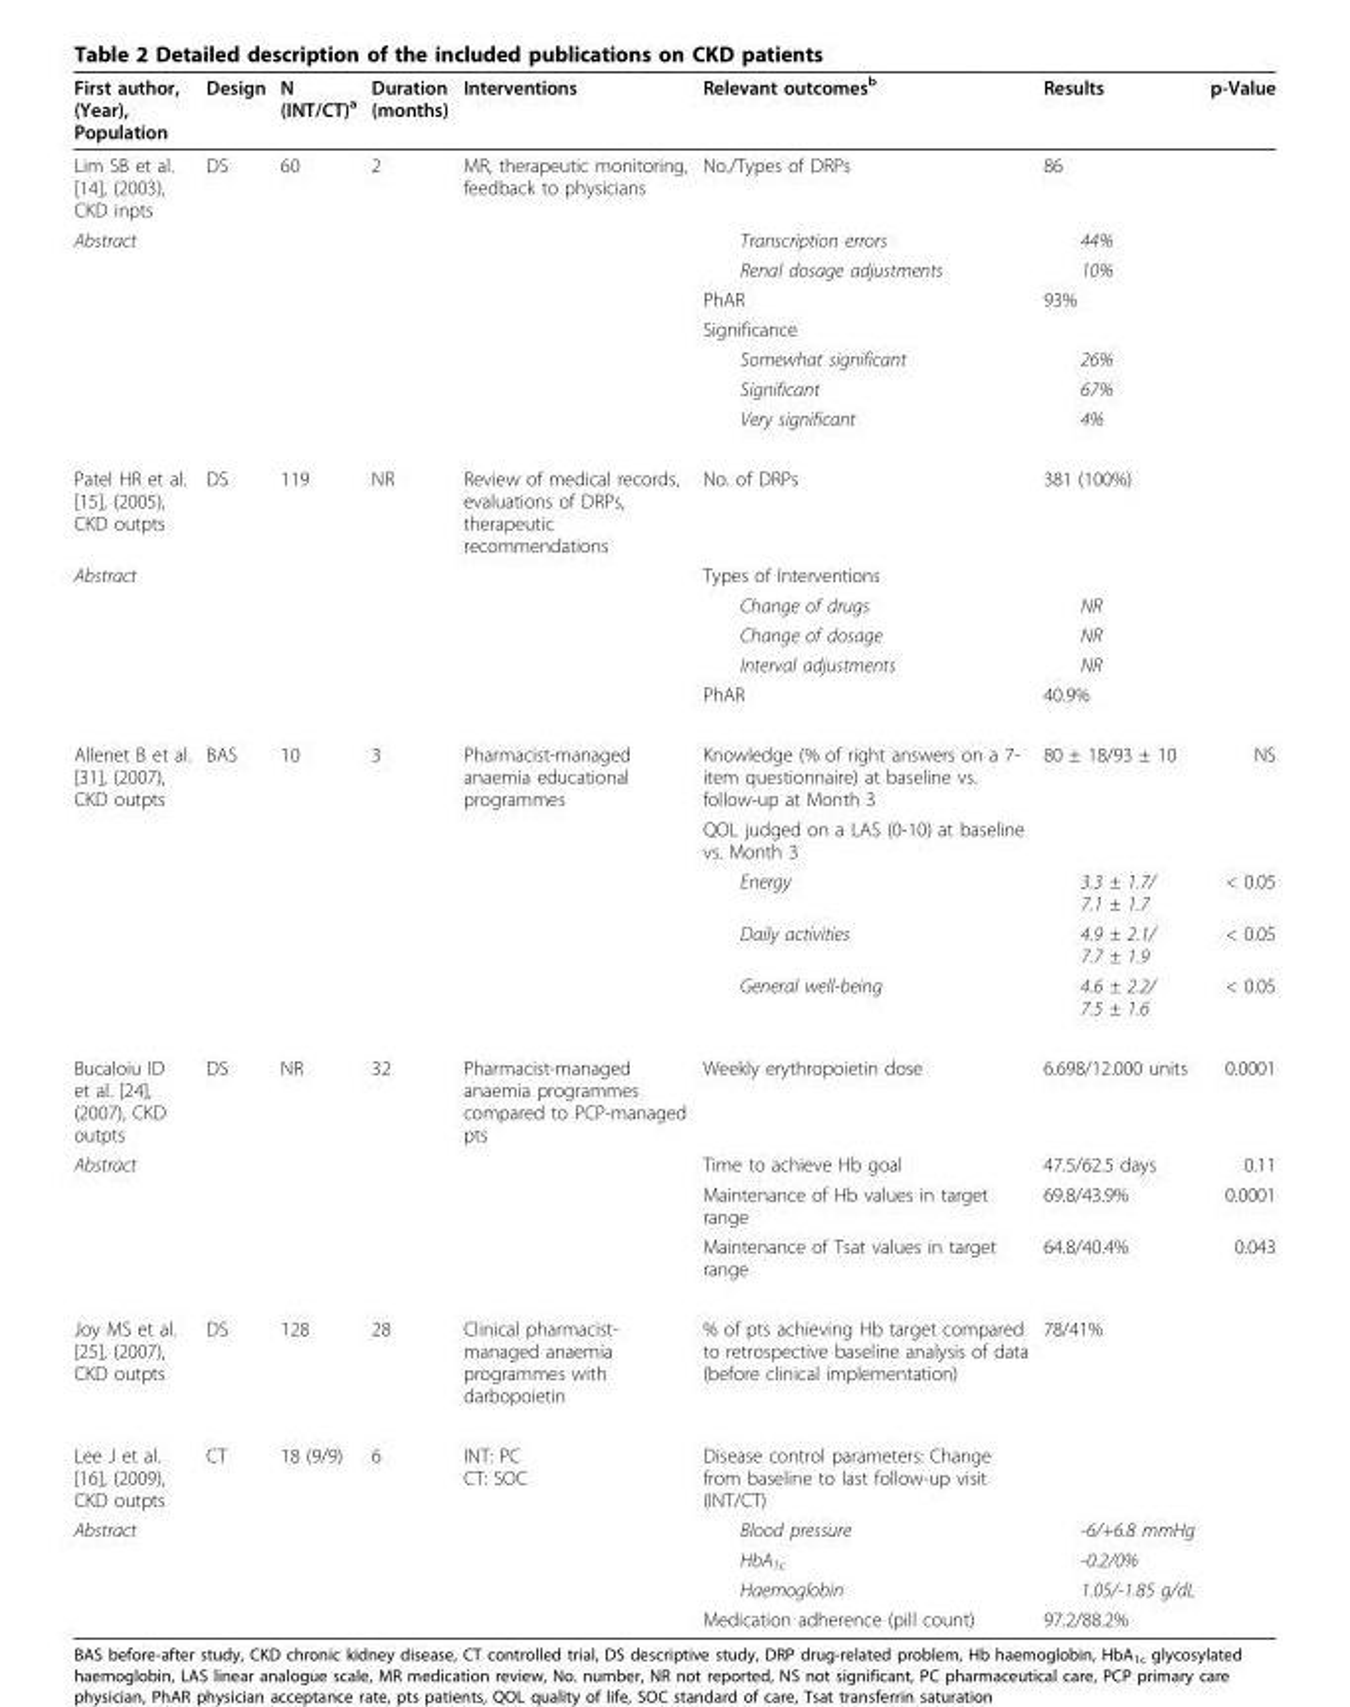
<table><thead><tr><td>First author, (Year), Population</td><td>Design</td><td>N (INT/CT)<sup>a</sup></td><td>Duration (months)</td><td>Interventions</td><td>Relevant outcomes<sup>b</sup></td><td>Results</td><td>p-Value</td></tr></thead><tbody><tr><td>Lim SB et al. [14], (2003), CKD inpts</td><td>DS</td><td>60</td><td>2</td><td>MR, therapeutic monitoring, feedback to physicians</td><td>No./Types of DRPs</td><td>86</td><td></td></tr><tr><td rowspan="7">Abstract</td><td></td><td></td><td></td><td></td><td>Transcription errors</td><td>44%</td><td></td></tr><tr><td></td><td></td><td></td><td></td><td>Renal dosage adjustments</td><td>10%</td><td></td></tr><tr><td></td><td></td><td></td><td></td><td>PhAR</td><td>93%</td><td></td></tr><tr><td></td><td></td><td></td><td></td><td>Significance</td><td></td><td></td></tr><tr><td></td><td></td><td></td><td></td><td>Somewhat significant</td><td>26%</td><td></td></tr><tr><td></td><td></td><td></td><td></td><td>Significant</td><td>67%</td><td></td></tr><tr><td></td><td></td><td></td><td></td><td>Very significant</td><td>4%</td><td></td></tr><tr><td>Patel HR et al. [15], (2005), CKD outpts</td><td>DS</td><td>119</td><td>NR</td><td>Review of medical records, evaluations of DRPs, therapeutic recommendations</td><td>No. of DRPs</td><td>381 (100%)</td><td></td></tr><tr><td rowspan="5">Abstract</td><td></td><td></td><td></td><td></td><td>Types of Interventions</td><td></td><td></td></tr><tr><td></td><td></td><td></td><td></td><td>Change of drugs</td><td>NR</td><td></td></tr><tr><td></td><td></td><td></td><td></td><td>Change of dosage</td><td>NR</td><td></td></tr><tr><td></td><td></td><td></td><td></td><td>Interval adjustments</td><td>NR</td><td></td></tr><tr><td></td><td></td><td></td><td></td><td>PhAR</td><td>40.9%</td><td></td></tr><tr><td rowspan="5">Allenet B et al. [31], (2007), CKD outpts</td><td>BAS</td><td>10</td><td>3</td><td>Pharmacist-managed anaemia educational programmes</td><td>Knowledge (% of right answers on a 7- item questionnaire) at baseline vs. follow-up at Month 3</td><td>80 ± 18/93 ± 10</td><td>NS</td></tr><tr><td></td><td></td><td></td><td></td><td>QOL judged on a LAS (0-10) at baseline vs. Month 3</td><td></td><td></td></tr><tr><td></td><td></td><td></td><td></td><td>Energy</td><td>3.3 ± 1.7/ 7.1 ± 1.7</td><td>&lt; 0.05</td></tr><tr><td></td><td></td><td></td><td></td><td>Daily activities</td><td>4.9 ± 2.1/ 7.7 ± 1.9</td><td>&lt; 0.05</td></tr><tr><td></td><td></td><td></td><td></td><td>General well-being</td><td>4.6 ± 2.2/ 7.5 ± 1.6</td><td>&lt; 0.05</td></tr><tr><td>Bucaloiu ID et al. [24], (2007), CKD outpts</td><td>DS</td><td>NR</td><td>32</td><td>Pharmacist-managed anaemia programmes compared to PCP-managed pts</td><td>Weekly erythropoietin dose</td><td>6.698/12.000 units</td><td>0.0001</td></tr><tr><td rowspan="3">Abstract</td><td></td><td></td><td></td><td></td><td>Time to achieve Hb goal</td><td>47.5/62.5 days</td><td>0.11</td></tr><tr><td></td><td></td><td></td><td></td><td>Maintenance of Hb values in target range</td><td>69.8/43.9%</td><td>0.0001</td></tr><tr><td></td><td></td><td></td><td></td><td>Maintenance of Tsat values in target range</td><td>64.8/40.4%</td><td>0.043</td></tr><tr><td>Joy MS et al. [25], (2007), CKD outpts</td><td>DS</td><td>128</td><td>28</td><td>Clinical pharmacist- managed anaemia programmes with darbopoietin</td><td>% of pts achieving Hb target compared to retrospective baseline analysis of data (before clinical implementation)</td><td>78/41%</td><td></td></tr><tr><td>Lee J et al. [16], (2009), CKD outpts</td><td>CT</td><td>18 (9/9)</td><td>6</td><td>INT: PC CT: SOC</td><td>Disease control parameters: Change from baseline to last follow-up visit (INT/CT)</td><td></td><td></td></tr><tr><td rowspan="4">Abstract</td><td></td><td></td><td></td><td></td><td>Blood pressure</td><td>-6/+6.8 mmHg</td><td></td></tr><tr><td></td><td></td><td></td><td></td><td>HbA<sub>1c</sub></td><td>-0.2/0%</td><td></td></tr><tr><td></td><td></td><td></td><td></td><td>Haemoglobin</td><td>1.05/-1.85 g/dL</td><td></td></tr><tr><td></td><td></td><td></td><td></td><td>Medication adherence (pill count)</td><td>97.2/88.2%</td><td></td></tr></tbody></table>